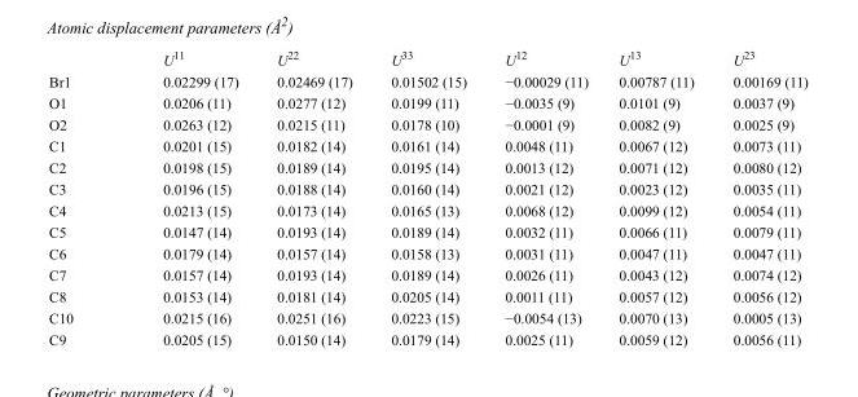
<table><thead><tr><td></td><td>U<sup>11</sup></td><td>U<sup>22</sup></td><td>U<sup>33</sup></td><td>U<sup>12</sup></td><td>U<sup>13</sup></td><td>U<sup>23</sup></td></tr></thead><tbody><tr><td>Br1</td><td>0.02299 (17)</td><td>0.02469 (17)</td><td>0.01502 (15)</td><td>−0.00029 (11)</td><td>0.00787 (11)</td><td>0.00169 (11)</td></tr><tr><td>O1</td><td>0.0206 (11)</td><td>0.0277 (12)</td><td>0.0199 (11)</td><td>−0.0035 (9)</td><td>0.0101 (9)</td><td>0.0037 (9)</td></tr><tr><td>O2</td><td>0.0263 (12)</td><td>0.0215 (11)</td><td>0.0178 (10)</td><td>−0.0001 (9)</td><td>0.0082 (9)</td><td>0.0025 (9)</td></tr><tr><td>C1</td><td>0.0201 (15)</td><td>0.0182 (14)</td><td>0.0161 (14)</td><td>0.0048 (11)</td><td>0.0067 (12)</td><td>0.0073 (11)</td></tr><tr><td>C2</td><td>0.0198 (15)</td><td>0.0189 (14)</td><td>0.0195 (14)</td><td>0.0013 (12)</td><td>0.0071 (12)</td><td>0.0080 (12)</td></tr><tr><td>C3</td><td>0.0196 (15)</td><td>0.0188 (14)</td><td>0.0160 (14)</td><td>0.0021 (12)</td><td>0.0023 (12)</td><td>0.0035 (11)</td></tr><tr><td>C4</td><td>0.0213 (15)</td><td>0.0173 (14)</td><td>0.0165 (13)</td><td>0.0068 (12)</td><td>0.0099 (12)</td><td>0.0054 (11)</td></tr><tr><td>C5</td><td>0.0147 (14)</td><td>0.0193 (14)</td><td>0.0189 (14)</td><td>0.0032 (11)</td><td>0.0066 (11)</td><td>0.0079 (11)</td></tr><tr><td>C6</td><td>0.0179 (14)</td><td>0.0157 (14)</td><td>0.0158 (13)</td><td>0.0031 (11)</td><td>0.0047 (11)</td><td>0.0047 (11)</td></tr><tr><td>C7</td><td>0.0157 (14)</td><td>0.0193 (14)</td><td>0.0189 (14)</td><td>0.0026 (11)</td><td>0.0043 (12)</td><td>0.0074 (12)</td></tr><tr><td>C8</td><td>0.0153 (14)</td><td>0.0181 (14)</td><td>0.0205 (14)</td><td>0.0011 (11)</td><td>0.0057 (12)</td><td>0.0056 (12)</td></tr><tr><td>C10</td><td>0.0215 (16)</td><td>0.0251 (16)</td><td>0.0223 (15)</td><td>−0.0054 (13)</td><td>0.0070 (13)</td><td>0.0005 (13)</td></tr><tr><td>C9</td><td>0.0205 (15)</td><td>0.0150 (14)</td><td>0.0179 (14)</td><td>0.0025 (11)</td><td>0.0059 (12)</td><td>0.0056 (11)</td></tr></tbody></table>